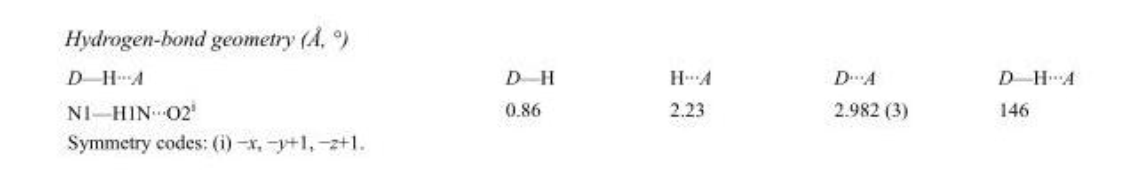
<table><tbody><tr><td>D—H···A</td><td>D—H</td><td>H···A</td><td>D···A</td><td>D—H···A</td></tr><tr><td>N1—H1N···O2<sup>i</sup></td><td>0.86</td><td>2.23</td><td>2.982 (3)</td><td>146</td></tr></tbody></table>